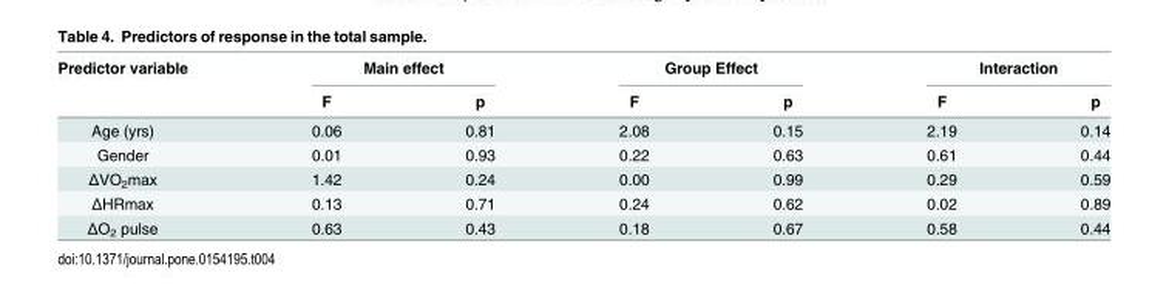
<table><thead><tr><td rowspan="2">Predictor variable</td><td colspan="2">Main effect</td><td colspan="2">Group Effect</td><td colspan="2">Interaction</td></tr><tr><td>F</td><td>p</td><td>F</td><td>p</td><td>F</td><td>p</td></tr></thead><tbody><tr><td>Age (yrs)</td><td>0.06</td><td>0.81</td><td>2.08</td><td>0.15</td><td>2.19</td><td>0.14</td></tr><tr><td>Gender</td><td>0.01</td><td>0.93</td><td>0.22</td><td>0.63</td><td>0.61</td><td>0.44</td></tr><tr><td>ΔVO<sub>2</sub>max</td><td>1.42</td><td>0.24</td><td>0.00</td><td>0.99</td><td>0.29</td><td>0.59</td></tr><tr><td>ΔHRmax</td><td>0.13</td><td>0.71</td><td>0.24</td><td>0.62</td><td>0.02</td><td>0.89</td></tr><tr><td>ΔO<sub>2</sub> pulse</td><td>0.63</td><td>0.43</td><td>0.18</td><td>0.67</td><td>0.58</td><td>0.44</td></tr></tbody></table>